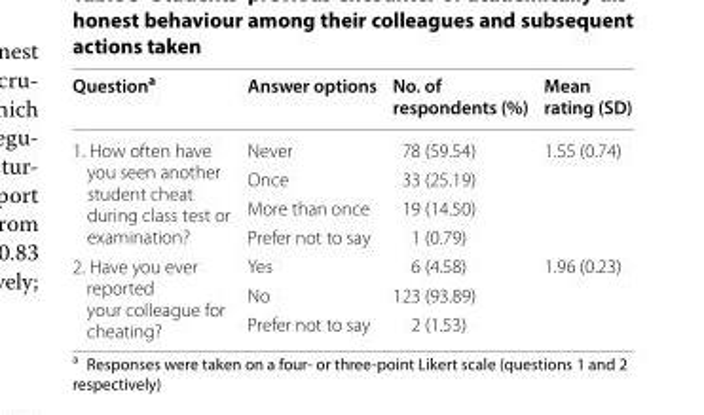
<table><thead><tr><td>Question<sup>a</sup></td><td>Answer options</td><td>No. of respondents (%)</td><td>Mean rating (SD)</td></tr></thead><tbody><tr><td rowspan="4">1. How often have you seen another student cheat during class test or examination?</td><td>Never</td><td>78 (59.54)</td><td rowspan="4">1.55 (0.74)</td></tr><tr><td>Once</td><td>33 (25.19)</td></tr><tr><td>More than once</td><td>19 (14.50)</td></tr><tr><td>Prefer not to say</td><td>1 (0.79)</td></tr><tr><td rowspan="3">2. Have you ever reported your colleague for cheating?</td><td>Yes</td><td>6 (4.58)</td><td rowspan="2">1.96 (0.23)</td></tr><tr><td>No</td><td>123 (93.89)</td></tr><tr><td>Prefer not to say</td><td>2 (1.53)</td><td></td></tr></tbody></table>